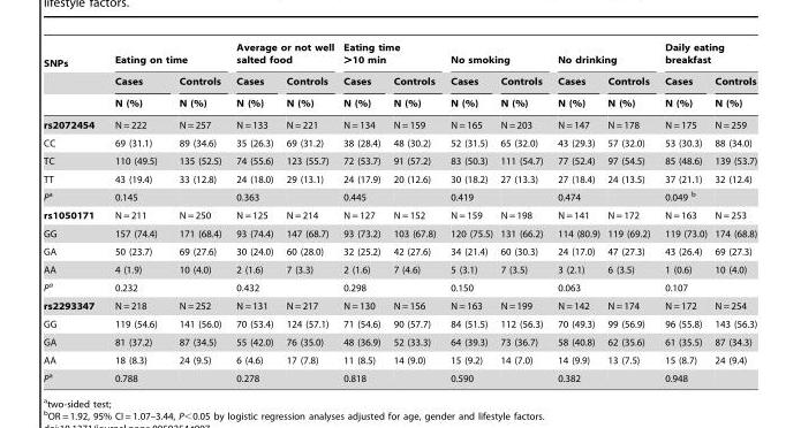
<table><thead><tr><td rowspan="3">SNPs</td><td colspan="2">Eating on time</td><td colspan="2">Average or not well salted food</td><td colspan="2">Eating time &gt;10 min</td><td colspan="2">No smoking</td><td colspan="2">No drinking</td><td colspan="2">Daily eating breakfast</td></tr><tr><td rowspan="2">Cases N (%)</td><td rowspan="2">Controls N (%)</td><td rowspan="2">Cases N (%)</td><td rowspan="2">Controls N (%)</td><td rowspan="2">Cases N (%)</td><td rowspan="2">Controls N (%)</td><td rowspan="2">Cases N (%)</td><td rowspan="2">Controls N (%)</td><td rowspan="2">Cases N (%)</td><td rowspan="2">Controls N (%)</td><td rowspan="2">Cases N (%)</td><td rowspan="2">Controls N (%)</td></tr><tr></tr></thead><tbody><tr><td>rs2072454</td><td>N = 222</td><td>N = 257</td><td>N = 133</td><td>N = 221</td><td>N = 134</td><td>N = 159</td><td>N = 165</td><td>N = 203</td><td>N = 147</td><td>N = 178</td><td>N = 175</td><td>N = 259</td></tr><tr><td>CC</td><td>69 (31.1)</td><td>89 (34.6)</td><td>35 (26.3)</td><td>69 (31.2)</td><td>38 (28.4)</td><td>48 (30.2)</td><td>52 (31.5)</td><td>65 (32.0)</td><td>43 (29.3)</td><td>57 (32.0)</td><td>53 (30.3)</td><td>88 (34.0)</td></tr><tr><td>TC</td><td>110 (49.5)</td><td>135 (52.5)</td><td>74 (55.6)</td><td>123 (55.7)</td><td>72 (53.7)</td><td>91 (57.2)</td><td>83 (50.3)</td><td>111 (54.7)</td><td>77 (52.4)</td><td>97 (54.5)</td><td>85 (48.6)</td><td>139 (53.7)</td></tr><tr><td>TT</td><td>43 (19.4)</td><td>33 (12.8)</td><td>24 (18.0)</td><td>29 (13.1)</td><td>24 (17.9)</td><td>20 (12.6)</td><td>30 (18.2)</td><td>27 (13.3)</td><td>27 (18.4)</td><td>24 (13.5)</td><td>37 (21.1)</td><td>32 (12.4)</td></tr><tr><td>Pa</td><td>0.145</td><td></td><td>0.363</td><td></td><td>0.445</td><td></td><td>0.419</td><td></td><td>0.474</td><td></td><td>0.049 b</td><td></td></tr><tr><td>rs1050171</td><td>N = 211</td><td>N = 250</td><td>N = 125</td><td>N = 214</td><td>N = 127</td><td>N = 152</td><td>N = 159</td><td>N = 198</td><td>N = 141</td><td>N = 172</td><td>N = 163</td><td>N = 253</td></tr><tr><td>GG</td><td>157 (74.4)</td><td>171 (68.4)</td><td>93 (74.4)</td><td>147 (68.7)</td><td>93 (73.2)</td><td>103 (67.8)</td><td>120 (75.5)</td><td>131 (66.2)</td><td>114 (80.9)</td><td>119 (69.2)</td><td>119 (73.0)</td><td>174 (68.8)</td></tr><tr><td>GA</td><td>50 (23.7)</td><td>69 (27.6)</td><td>30 (24.0)</td><td>60 (28.0)</td><td>32 (25.2)</td><td>42 (27.6)</td><td>34 (21.4)</td><td>60 (30.3)</td><td>24 (17.0)</td><td>47 (27.3)</td><td>43 (26.4)</td><td>69 (27.3)</td></tr><tr><td>AA</td><td>4 (1.9)</td><td>10 (4.0)</td><td>2 (1.6)</td><td>7 (3.3)</td><td>2 (1.6)</td><td>7 (4.6)</td><td>5 (3.1)</td><td>7 (3.5)</td><td>3 (2.1)</td><td>6 (3.5)</td><td>1 (0.6)</td><td>10 (4.0)</td></tr><tr><td>Pa</td><td>0.232</td><td></td><td>0.432</td><td></td><td>0.298</td><td></td><td>0.150</td><td></td><td>0.063</td><td></td><td>0.107</td><td></td></tr><tr><td>rs2293347</td><td>N = 218</td><td>N = 252</td><td>N = 131</td><td>N = 217</td><td>N = 130</td><td>N = 156</td><td>N = 163</td><td>N = 199</td><td>N = 142</td><td>N = 174</td><td>N = 172</td><td>N = 254</td></tr><tr><td>GG</td><td>119 (54.6)</td><td>141 (56.0)</td><td>70 (53.4)</td><td>124 (57.1)</td><td>71 (54.6)</td><td>90 (57.7)</td><td>84 (51.5)</td><td>112 (56.3)</td><td>70 (49.3)</td><td>99 (56.9)</td><td>96 (55.8)</td><td>143 (56.3)</td></tr><tr><td>GA</td><td>81 (37.2)</td><td>87 (34.5)</td><td>55 (42.0)</td><td>76 (35.0)</td><td>48 (36.9)</td><td>52 (33.3)</td><td>64 (39.3)</td><td>73 (36.7)</td><td>58 (40.8)</td><td>62 (35.6)</td><td>61 (35.5)</td><td>87 (34.3)</td></tr><tr><td>AA</td><td>18 (8.3)</td><td>24 (9.5)</td><td>6 (4.6)</td><td>17 (7.8)</td><td>11 (8.5)</td><td>14 (9.0)</td><td>15 (9.2)</td><td>14 (7.0)</td><td>14 (9.9)</td><td>13 (7.5)</td><td>15 (8.7)</td><td>24 (9.4)</td></tr><tr><td>Pa</td><td>0.788</td><td></td><td>0.278</td><td></td><td>0.818</td><td></td><td>0.590</td><td></td><td>0.382</td><td></td><td>0.948</td><td></td></tr></tbody></table>